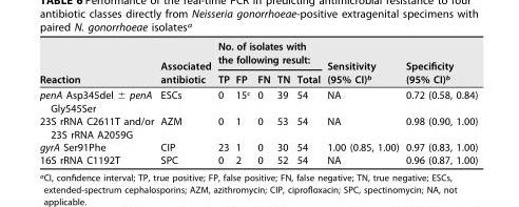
<table><thead><tr><td rowspan="2">Reaction</td><td rowspan="2">Associated antibiotic</td><td colspan="5">No. of isolates with the following result:</td><td rowspan="2">Sensitivity (95% CI)<sup>b</sup></td><td rowspan="2">Specificity (95% CI)<sup>b</sup></td></tr><tr><td>TP</td><td>FP</td><td>FN</td><td>TN</td><td>Total</td></tr></thead><tbody><tr><td>penA Asp345del ± penA Gly545Ser</td><td>ESCs</td><td>0</td><td>15<sup>c</sup></td><td>0</td><td>39</td><td>54</td><td>NA</td><td>0.72 (0.58, 0.84)</td></tr><tr><td>23S rRNA C2611T and/or 23S rRNA A2059G</td><td>AZM</td><td>0</td><td>1</td><td>0</td><td>53</td><td>54</td><td>NA</td><td>0.98 (0.90, 1.00)</td></tr><tr><td>gyrA Ser91Phe</td><td>CIP</td><td>23</td><td>1</td><td>0</td><td>30</td><td>54</td><td>1.00 (0.85, 1.00)</td><td>0.97 (0.83, 1.00)</td></tr><tr><td>16S rRNA C1192T</td><td>SPC</td><td>0</td><td>2</td><td>0</td><td>52</td><td>54</td><td>NA</td><td>0.96 (0.87, 1.00)</td></tr></tbody></table>